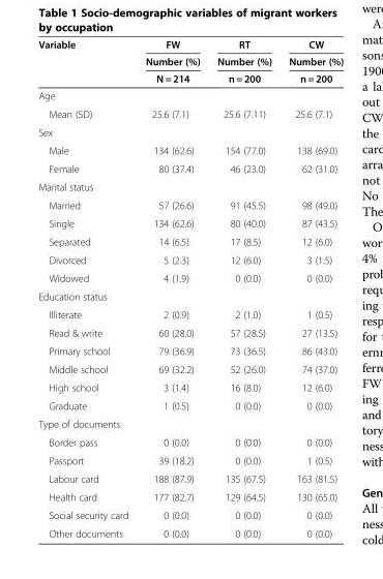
<table><thead><tr><td rowspan="3">Variable</td><td rowspan="3">FW Number (%) N = 214</td><td rowspan="3">RT Number (%) n = 200</td><td rowspan="3">CW Number (%) n = 200</td></tr><tr></tr><tr></tr></thead><tbody><tr><td colspan="4">Age</td></tr><tr><td>Mean (SD)</td><td>25.6 (7.1)</td><td>25.6 (7.11)</td><td>25.6 (7.1)</td></tr><tr><td colspan="4">Sex</td></tr><tr><td>Male</td><td>134 (62.6)</td><td>154 (77.0)</td><td>138 (69.0)</td></tr><tr><td>Female</td><td>80 (37.4)</td><td>46 (23.0)</td><td>62 (31.0)</td></tr><tr><td colspan="4">Marital status</td></tr><tr><td>Married</td><td>57 (26.6)</td><td>91 (45.5)</td><td>98 (49.0)</td></tr><tr><td>Single</td><td>134 (62.6)</td><td>80 (40.0)</td><td>87 (43.5)</td></tr><tr><td>Separated</td><td>14 (6.5)</td><td>17 (8.5)</td><td>12 (6.0)</td></tr><tr><td>Divorced</td><td>5 (2.3)</td><td>12 (6.0)</td><td>3 (1.5)</td></tr><tr><td>Widowed</td><td>4 (1.9)</td><td>0 (0.0)</td><td>0 (0.0)</td></tr><tr><td colspan="4">Education status</td></tr><tr><td>Illiterate</td><td>2 (0.9)</td><td>2 (1.0)</td><td>1 (0.5)</td></tr><tr><td>Read &amp; write</td><td>60 (28.0)</td><td>57 (28.5)</td><td>27 (13.5)</td></tr><tr><td>Primary school</td><td>79 (36.9)</td><td>73 (36.5)</td><td>86 (43.0)</td></tr><tr><td>Middle school</td><td>69 (32.2)</td><td>52 (26.0)</td><td>74 (37.0)</td></tr><tr><td>High school</td><td>3 (1.4)</td><td>16 (8.0)</td><td>12 (6.0)</td></tr><tr><td>Graduate</td><td>1 (0.5)</td><td>0 (0.0)</td><td>0 (0.0)</td></tr><tr><td colspan="4">Type of documents</td></tr><tr><td>Border pass</td><td>0 (0.0)</td><td>0 (0.0)</td><td>0 (0.0)</td></tr><tr><td>Passport</td><td>39 (18.2)</td><td>0 (0.0)</td><td>1 (0.5)</td></tr><tr><td>Labour card</td><td>188 (87.9)</td><td>135 (67.5)</td><td>163 (81.5)</td></tr><tr><td>Health card</td><td>177 (82.7)</td><td>129 (64.5)</td><td>130 (65.0)</td></tr><tr><td>Social security card</td><td>0 (0.0)</td><td>0 (0.0)</td><td>0 (0.0)</td></tr><tr><td>Other documents</td><td>0 (0.0)</td><td>0 (0.0)</td><td>0 (0.0)</td></tr></tbody></table>